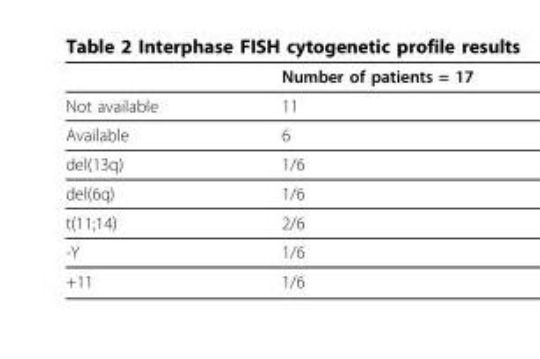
<table><thead><tr><td></td><td>Number of patients = 17</td></tr></thead><tbody><tr><td>Not available</td><td>11</td></tr><tr><td>Available</td><td>6</td></tr><tr><td>del(13q)</td><td>1/6</td></tr><tr><td>del(6q)</td><td>1/6</td></tr><tr><td>t(11;14)</td><td>2/6</td></tr><tr><td>-Y</td><td>1/6</td></tr><tr><td>+11</td><td>1/6</td></tr></tbody></table>